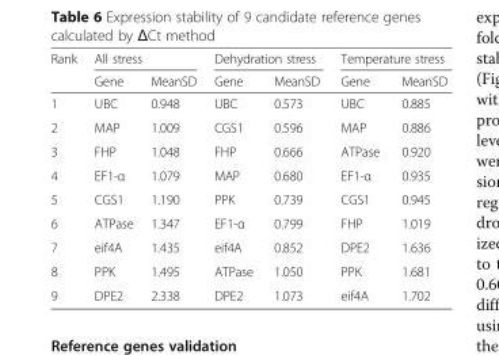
<table><thead><tr><td rowspan="2">Rank</td><td colspan="2">All stress</td><td colspan="2">Dehydration stress</td><td colspan="2">Temperature stress</td></tr><tr><td>Gene</td><td>MeanSD</td><td>Gene</td><td>MeanSD</td><td>Gene</td><td>MeanSD</td></tr></thead><tbody><tr><td>1</td><td>UBC</td><td>0.948</td><td>UBC</td><td>0.573</td><td>UBC</td><td>0.885</td></tr><tr><td>2</td><td>MAP</td><td>1.009</td><td>CGS1</td><td>0.596</td><td>MAP</td><td>0.886</td></tr><tr><td>3</td><td>FHP</td><td>1.048</td><td>FHP</td><td>0.666</td><td>ATPase</td><td>0.920</td></tr><tr><td>4</td><td>EF1-α</td><td>1.079</td><td>MAP</td><td>0.680</td><td>EF1-α</td><td>0.935</td></tr><tr><td>5</td><td>CGS1</td><td>1.190</td><td>PPK</td><td>0.739</td><td>CGS1</td><td>0.945</td></tr><tr><td>6</td><td>ATPase</td><td>1.347</td><td>EF1-α</td><td>0.799</td><td>FHP</td><td>1.019</td></tr><tr><td>7</td><td>eif4A</td><td>1.435</td><td>eif4A</td><td>0.852</td><td>DPE2</td><td>1.636</td></tr><tr><td>8</td><td>PPK</td><td>1.495</td><td>ATPase</td><td>1.050</td><td>PPK</td><td>1.681</td></tr><tr><td>9</td><td>DPE2</td><td>2.338</td><td>DPE2</td><td>1.073</td><td>eif4A</td><td>1.702</td></tr></tbody></table>